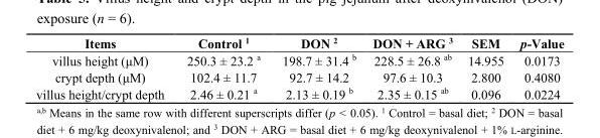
<table><thead><tr><td>Items</td><td>Control <sup>1</sup></td><td>DON <sup>2</sup></td><td>DON + ARG <sup>3</sup></td><td>SEM</td><td>p-Value</td></tr></thead><tbody><tr><td>villus height (μM)</td><td>250.3 ± 23.2 <sup>a</sup></td><td>198.7 ± 31.4 <sup>b</sup></td><td>228.5 ± 26.8 <sup>ab</sup></td><td>14.955</td><td>0.0173</td></tr><tr><td>crypt depth (μM)</td><td>102.4 ± 11.7</td><td>92.7 ± 14.2</td><td>97.6 ± 10.3</td><td>2.800</td><td>0.4080</td></tr><tr><td>villus height/crypt depth</td><td>2.46 ± 0.21 <sup>a</sup></td><td>2.13 ± 0.19 <sup>b</sup></td><td>2.35 ± 0.15 <sup>ab</sup></td><td>0.096</td><td>0.0224</td></tr></tbody></table>